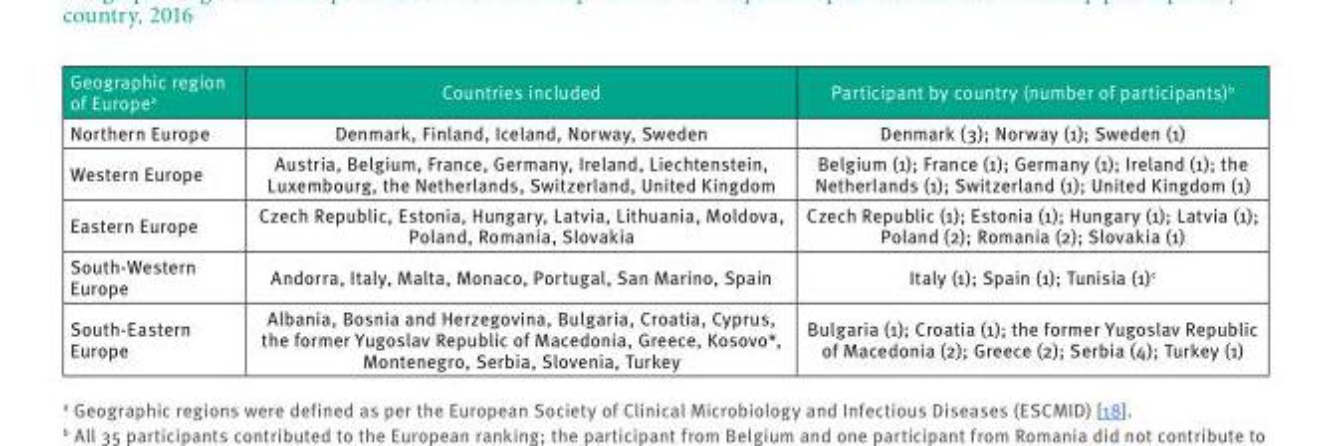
<table><thead><tr><td>Geographic region of Europe<sup>a</sup></td><td>Countries included</td><td>Participant by country (number of participants)<sup>b</sup></td></tr></thead><tbody><tr><td>Northern Europe</td><td>Denmark, Finland, Iceland, Norway, Sweden</td><td>Denmark (3); Norway (1); Sweden (1)</td></tr><tr><td>Western Europe</td><td>Austria, Belgium, France, Germany, Ireland, Liechtenstein, Luxembourg, the Netherlands, Switzerland, United Kingdom</td><td>Belgium (1); France (1); Germany (1); Ireland (1); the Netherlands (1); Switzerland (1); United Kingdom (1)</td></tr><tr><td>Eastern Europe</td><td>Czech Republic, Estonia, Hungary, Latvia, Lithuania, Moldova, Poland, Romania, Slovakia</td><td>Czech Republic (1); Estonia (1); Hungary (1); Latvia (1); Poland (2); Romania (2); Slovakia (1)</td></tr><tr><td>South-Western Europe</td><td>Andorra, Italy, Malta, Monaco, Portugal, San Marino, Spain</td><td>Italy (1); Spain (1); Tunisia (1)<sup>c</sup></td></tr><tr><td>South-Eastern Europe</td><td>Albania, Bosnia and Herzegovina, Bulgaria, Croatia, Cyprus, the former Yugoslav Republic of Macedonia, Greece, Kosovo*, Montenegro, Serbia, Slovenia, Turkey</td><td>Bulgaria (1); Croatia (1); the former Yugoslav Republic of Macedonia (2); Greece (2); Serbia (4); Turkey (1)</td></tr></tbody></table>